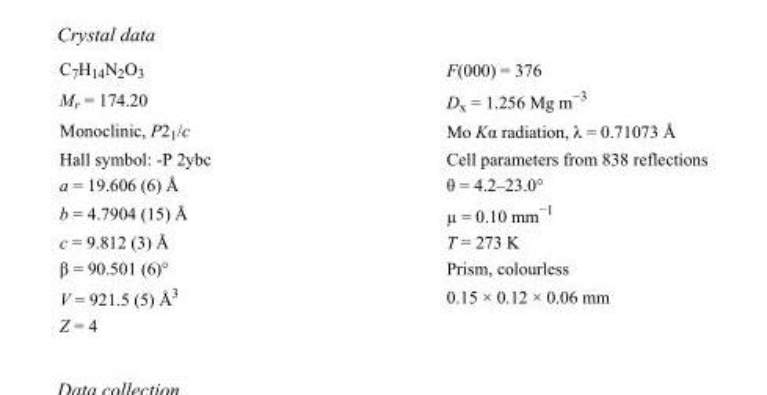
<table><tbody><tr><td>C<sub>7</sub>H<sub>14</sub>N<sub>2</sub>O<sub>3</sub></td><td>F(000) = 376</td></tr><tr><td>M<sub>r</sub> = 174.20</td><td>D<sub>x</sub> = 1.256 Mg m<sup>−3</sup></td></tr><tr><td>Monoclinic, P2<sub>1</sub>/c</td><td>Mo Kα radiation, λ = 0.71073 Å</td></tr><tr><td>Hall symbol: -P 2ybc</td><td>Cell parameters from 838 reflections</td></tr><tr><td>a = 19.606 (6) Å</td><td>θ = 4.2–23.0°</td></tr><tr><td>b = 4.7904 (15) Å</td><td>µ = 0.10 mm<sup>−1</sup></td></tr><tr><td>c = 9.812 (3) Å</td><td>T = 273 K</td></tr><tr><td>β = 90.501 (6)°</td><td>Prism, colourless</td></tr><tr><td>V = 921.5 (5) Å<sup>3</sup></td><td>0.15 × 0.12 × 0.06 mm</td></tr><tr><td>Z = 4</td><td></td></tr></tbody></table>